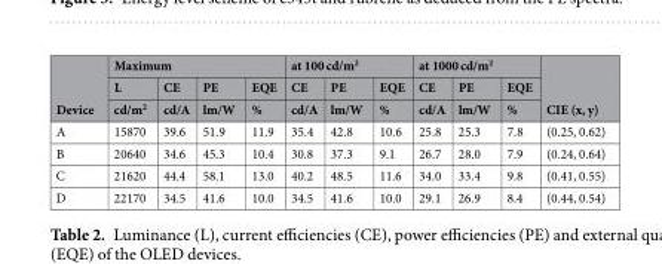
<table><thead><tr><td rowspan="3">Device</td><td colspan="4">Maximum</td><td colspan="3">at 100 cd/m<sup>2</sup></td><td colspan="3">at 1000 cd/m<sup>2</sup></td><td rowspan="3">CIE (x, y)</td></tr><tr><td rowspan="2">L cd/m<sup>2</sup></td><td rowspan="2">CE cd/A</td><td rowspan="2">PE lm/W</td><td rowspan="2">EQE %</td><td rowspan="2">CE cd/A</td><td rowspan="2">PE lm/W</td><td rowspan="2">EQE %</td><td rowspan="2">CE cd/A</td><td rowspan="2">PE lm/W</td><td rowspan="2">EQE %</td></tr><tr></tr></thead><tbody><tr><td>A</td><td>15870</td><td>39.6</td><td>51.9</td><td>11.9</td><td>35.4</td><td>42.8</td><td>10.6</td><td>25.8</td><td>25.3</td><td>7.8</td><td>(0.25, 0.62)</td></tr><tr><td>B</td><td>20640</td><td>34.6</td><td>45.3</td><td>10.4</td><td>30.8</td><td>37.3</td><td>9.1</td><td>26.7</td><td>28.0</td><td>7.9</td><td>(0.24, 0.64)</td></tr><tr><td>C</td><td>21620</td><td>44.4</td><td>58.1</td><td>13.0</td><td>40.2</td><td>48.5</td><td>11.6</td><td>34.0</td><td>33.4</td><td>9.8</td><td>(0.41, 0.55)</td></tr><tr><td>D</td><td>22170</td><td>34.5</td><td>41.6</td><td>10.0</td><td>34.5</td><td>41.6</td><td>10.0</td><td>29.1</td><td>26.9</td><td>8.4</td><td>(0.44, 0.54)</td></tr></tbody></table>